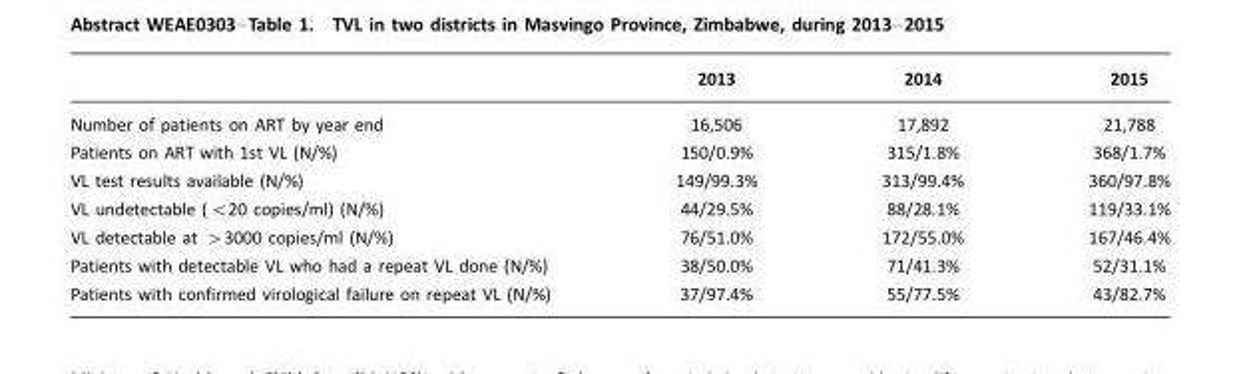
<table><thead><tr><td></td><td>2013</td><td>2014</td><td>2015</td></tr></thead><tbody><tr><td>Number of patients on ART by year end</td><td>16,506</td><td>17,892</td><td>21,788</td></tr><tr><td>Patients on ART with 1st VL (N/%)</td><td>150/0.9%</td><td>315/1.8%</td><td>368/1.7%</td></tr><tr><td>VL test results available (N/%)</td><td>149/99.3%</td><td>313/99.4%</td><td>360/97.8%</td></tr><tr><td>VL undetectable (&lt;20 copies/ml) (N/%)</td><td>44/29.5%</td><td>88/28.1%</td><td>119/33.1%</td></tr><tr><td>VL detectable at &gt;3000 copies/ml (N/%)</td><td>76/51.0%</td><td>172/55.0%</td><td>167/46.4%</td></tr><tr><td>Patients with detectable VL who had a repeat VL done (N/%)</td><td>38/50.0%</td><td>71/41.3%</td><td>52/31.1%</td></tr><tr><td>Patients with confirmed virological failure on repeat VL (N/%)</td><td>37/97.4%</td><td>55/77.5%</td><td>43/82.7%</td></tr></tbody></table>